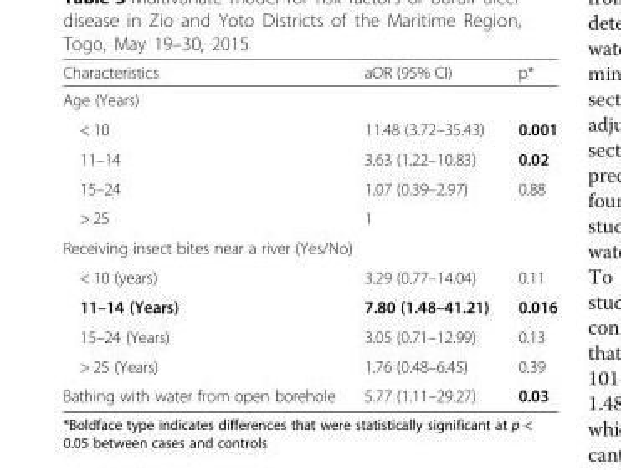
<table><thead><tr><td>Characteristics</td><td>aOR (95% CI)</td><td>p*</td></tr></thead><tbody><tr><td colspan="3">Age (Years)</td></tr><tr><td>&lt; 10</td><td>11.48 (3.72–35.43)</td><td>0.001</td></tr><tr><td>11–14</td><td>3.63 (1.22–10.83)</td><td>0.02</td></tr><tr><td>15–24</td><td>1.07 (0.39–2.97)</td><td>0.88</td></tr><tr><td>&gt; 25</td><td>1</td><td></td></tr><tr><td colspan="3">Receiving insect bites near a river (Yes/No)</td></tr><tr><td>&lt; 10 (years)</td><td>3.29 (0.77–14.04)</td><td>0.11</td></tr><tr><td>11–14 (Years)</td><td>7.80 (1.48–41.21)</td><td>0.016</td></tr><tr><td>15–24 (Years)</td><td>3.05 (0.71–12.99)</td><td>0.13</td></tr><tr><td>&gt; 25 (Years)</td><td>1.76 (0.48–6.45)</td><td>0.39</td></tr><tr><td>Bathing with water from open borehole</td><td>5.77 (1.11–29.27)</td><td>0.03</td></tr></tbody></table>